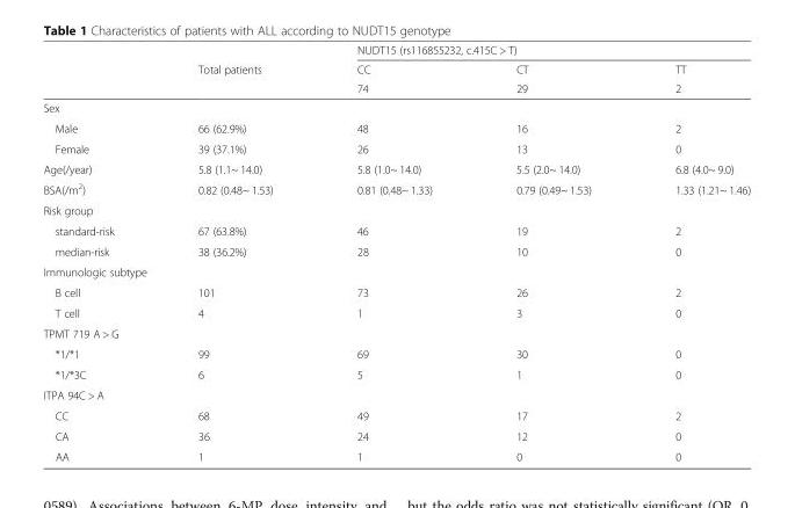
<table><thead><tr><td rowspan="3"></td><td rowspan="3">Total patients</td><td colspan="3">NUDT15 (rs116855232, c.415C &gt; T)</td></tr><tr><td rowspan="2">CC 74</td><td rowspan="2">CT 29</td><td rowspan="2">TT 2</td></tr><tr></tr></thead><tbody><tr><td colspan="5">Sex</td></tr><tr><td>Male</td><td>66 (62.9%)</td><td>48</td><td>16</td><td>2</td></tr><tr><td>Female</td><td>39 (37.1%)</td><td>26</td><td>13</td><td>0</td></tr><tr><td>Age(/year)</td><td>5.8 (1.1~ 14.0)</td><td>5.8 (1.0~ 14.0)</td><td>5.5 (2.0~ 14.0)</td><td>6.8 (4.0~ 9.0)</td></tr><tr><td>BSA(/m<sup>2</sup>)</td><td>0.82 (0.48~ 1.53)</td><td>0.81 (0.48~ 1.33)</td><td>0.79 (0.49~ 1.53)</td><td>1.33 (1.21~ 1.46)</td></tr><tr><td colspan="5">Risk group</td></tr><tr><td>standard-risk</td><td>67 (63.8%)</td><td>46</td><td>19</td><td>2</td></tr><tr><td>median-risk</td><td>38 (36.2%)</td><td>28</td><td>10</td><td>0</td></tr><tr><td colspan="5">Immunologic subtype</td></tr><tr><td>B cell</td><td>101</td><td>73</td><td>26</td><td>2</td></tr><tr><td>T cell</td><td>4</td><td>1</td><td>3</td><td>0</td></tr><tr><td colspan="5">TPMT 719 A &gt; G</td></tr><tr><td>*1/*1</td><td>99</td><td>69</td><td>30</td><td>0</td></tr><tr><td>*1/*3C</td><td>6</td><td>5</td><td>1</td><td>0</td></tr><tr><td colspan="5">ITPA 94C &gt; A</td></tr><tr><td>CC</td><td>68</td><td>49</td><td>17</td><td>2</td></tr><tr><td>CA</td><td>36</td><td>24</td><td>12</td><td>0</td></tr><tr><td>AA</td><td>1</td><td>1</td><td>0</td><td>0</td></tr></tbody></table>